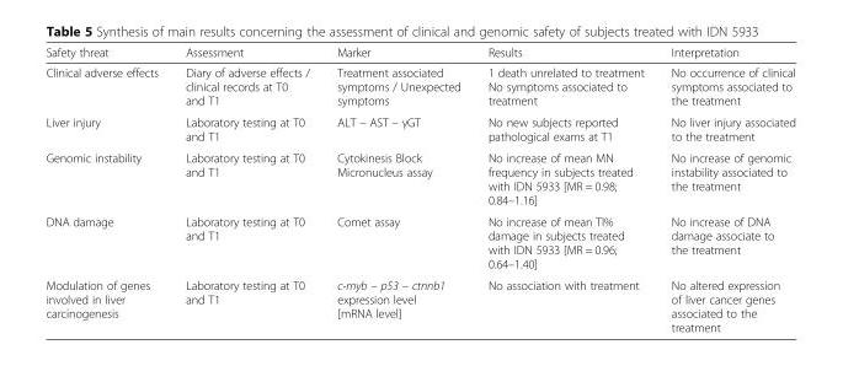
<table><thead><tr><td>Safety threat</td><td>Assessment</td><td>Marker</td><td>Results</td><td>Interpretation</td></tr></thead><tbody><tr><td>Clinical adverse effects</td><td>Diary of adverse effects / clinical records at T0 and T1</td><td>Treatment associated symptoms / Unexpected symptoms</td><td>1 death unrelated to treatment No symptoms associated to treatment</td><td>No occurrence of clinical symptoms associated to the treatment</td></tr><tr><td>Liver injury</td><td>Laboratory testing at T0 and T1</td><td>ALT – AST – γGT</td><td>No new subjects reported pathological exams at T1</td><td>No liver injury associated to the treatment</td></tr><tr><td>Genomic instability</td><td>Laboratory testing at T0 and T1</td><td>Cytokinesis Block Micronucleus assay</td><td>No increase of mean MN frequency in subjects treated with IDN 5933 [MR = 0.98; 0.84–1.16]</td><td>No increase of genomic instability associated to the treatment</td></tr><tr><td>DNA damage</td><td>Laboratory testing at T0 and T1</td><td>Comet assay</td><td>No increase of mean TI% damage in subjects treated with IDN 5933 [MR = 0.96; 0.64–1.40]</td><td>No increase of DNA damage associate to the treatment</td></tr><tr><td>Modulation of genes involved in liver carcinogenesis</td><td>Laboratory testing at T0 and T1</td><td>c-myb – p53 – ctnnb1 expression level [mRNA level]</td><td>No association with treatment</td><td>No altered expression of liver cancer genes associated to the treatment</td></tr></tbody></table>